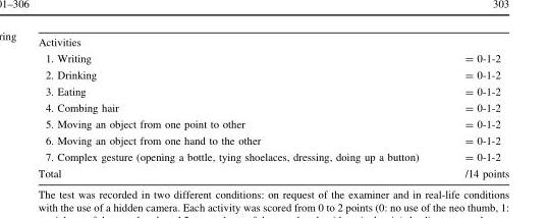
<table><tbody><tr><td colspan="2">Activities</td></tr><tr><td>1. Writing</td><td>= 0-1-2</td></tr><tr><td>2. Drinking</td><td>= 0-1-2</td></tr><tr><td>3. Eating</td><td>= 0-1-2</td></tr><tr><td>4. Combing hair</td><td>= 0-1-2</td></tr><tr><td>5. Moving an object from one point to other</td><td>= 0-1-2</td></tr><tr><td>6. Moving an object from one hand to the other</td><td>= 0-1-2</td></tr><tr><td>7. Complex gesture (opening a bottle, tying shoelaces, dressing, doing up a button)</td><td>= 0-1-2</td></tr><tr><td>Total</td><td>/14 points</td></tr></tbody></table>